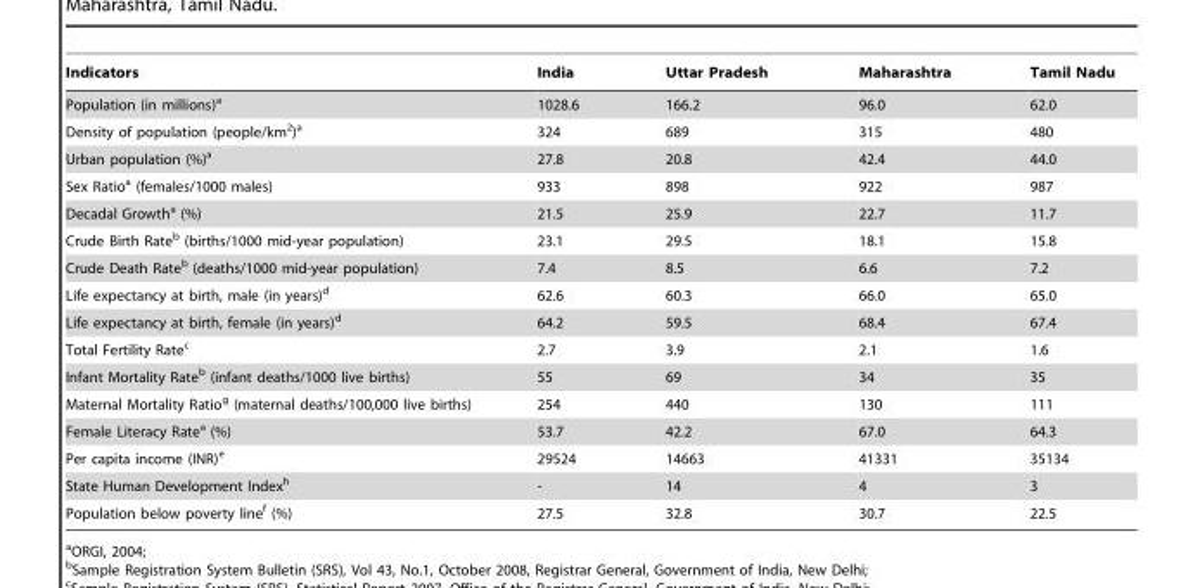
<table><thead><tr><td>Indicators</td><td>India</td><td>Uttar Pradesh</td><td>Maharashtra</td><td>Tamil Nadu</td></tr></thead><tbody><tr><td>Population (in millions)<sup>a</sup></td><td>1028.6</td><td>166.2</td><td>96.0</td><td>62.0</td></tr><tr><td>Density of population (people/km<sup>2</sup>)<sup>a</sup></td><td>324</td><td>689</td><td>315</td><td>480</td></tr><tr><td>Urban population (%)<sup>a</sup></td><td>27.8</td><td>20.8</td><td>42.4</td><td>44.0</td></tr><tr><td>Sex Ratio<sup>a</sup> (females/1000 males)</td><td>933</td><td>898</td><td>922</td><td>987</td></tr><tr><td>Decadal Growth<sup>a</sup> (%)</td><td>21.5</td><td>25.9</td><td>22.7</td><td>11.7</td></tr><tr><td>Crude Birth Rate<sup>b</sup> (births/1000 mid-year population)</td><td>23.1</td><td>29.5</td><td>18.1</td><td>15.8</td></tr><tr><td>Crude Death Rate<sup>b</sup> (deaths/1000 mid-year population)</td><td>7.4</td><td>8.5</td><td>6.6</td><td>7.2</td></tr><tr><td>Life expectancy at birth, male (in years)<sup>d</sup></td><td>62.6</td><td>60.3</td><td>66.0</td><td>65.0</td></tr><tr><td>Life expectancy at birth, female (in years)<sup>d</sup></td><td>64.2</td><td>59.5</td><td>68.4</td><td>67.4</td></tr><tr><td>Total Fertility Rate<sup>c</sup></td><td>2.7</td><td>3.9</td><td>2.1</td><td>1.6</td></tr><tr><td>Infant Mortality Rate<sup>b</sup> (infant deaths/1000 live births)</td><td>55</td><td>69</td><td>34</td><td>35</td></tr><tr><td>Maternal Mortality Ratio<sup>g</sup> (maternal deaths/100,000 live births)</td><td>254</td><td>440</td><td>130</td><td>111</td></tr><tr><td>Female Literacy Rate<sup>a</sup> (%)</td><td>53.7</td><td>42.2</td><td>67.0</td><td>64.3</td></tr><tr><td>Per capita income (INR)<sup>e</sup></td><td>29524</td><td>14663</td><td>41331</td><td>35134</td></tr><tr><td>State Human Development Index<sup>h</sup></td><td>-</td><td>14</td><td>4</td><td>3</td></tr><tr><td>Population below poverty line<sup>f</sup> (%)</td><td>27.5</td><td>32.8</td><td>30.7</td><td>22.5</td></tr></tbody></table>